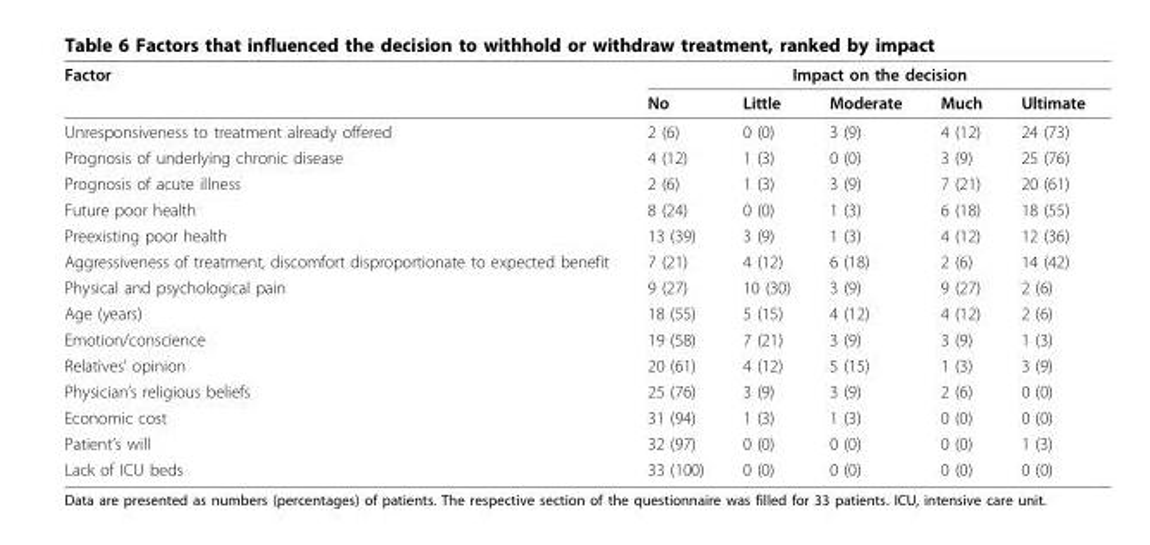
<table><thead><tr><td rowspan="2">Factor</td><td colspan="5">Impact on the decision</td></tr><tr><td>No</td><td>Little</td><td>Moderate</td><td>Much</td><td>Ultimate</td></tr></thead><tbody><tr><td>Unresponsiveness to treatment already offered</td><td>2 (6)</td><td>0 (0)</td><td>3 (9)</td><td>4 (12)</td><td>24 (73)</td></tr><tr><td>Prognosis of underlying chronic disease</td><td>4 (12)</td><td>1 (3)</td><td>0 (0)</td><td>3 (9)</td><td>25 (76)</td></tr><tr><td>Prognosis of acute illness</td><td>2 (6)</td><td>1 (3)</td><td>3 (9)</td><td>7 (21)</td><td>20 (61)</td></tr><tr><td>Future poor health</td><td>8 (24)</td><td>0 (0)</td><td>1 (3)</td><td>6 (18)</td><td>18 (55)</td></tr><tr><td>Preexisting poor health</td><td>13 (39)</td><td>3 (9)</td><td>1 (3)</td><td>4 (12)</td><td>12 (36)</td></tr><tr><td>Aggressiveness of treatment, discomfort disproportionate to expected benefit</td><td>7 (21)</td><td>4 (12)</td><td>6 (18)</td><td>2 (6)</td><td>14 (42)</td></tr><tr><td>Physical and psychological pain</td><td>9 (27)</td><td>10 (30)</td><td>3 (9)</td><td>9 (27)</td><td>2 (6)</td></tr><tr><td>Age (years)</td><td>18 (55)</td><td>5 (15)</td><td>4 (12)</td><td>4 (12)</td><td>2 (6)</td></tr><tr><td>Emotion/conscience</td><td>19 (58)</td><td>7 (21)</td><td>3 (9)</td><td>3 (9)</td><td>1 (3)</td></tr><tr><td>Relatives’ opinion</td><td>20 (61)</td><td>4 (12)</td><td>5 (15)</td><td>1 (3)</td><td>3 (9)</td></tr><tr><td>Physician’s religious beliefs</td><td>25 (76)</td><td>3 (9)</td><td>3 (9)</td><td>2 (6)</td><td>0 (0)</td></tr><tr><td>Economic cost</td><td>31 (94)</td><td>1 (3)</td><td>1 (3)</td><td>0 (0)</td><td>0 (0)</td></tr><tr><td>Patient’s will</td><td>32 (97)</td><td>0 (0)</td><td>0 (0)</td><td>0 (0)</td><td>1 (3)</td></tr><tr><td>Lack of ICU beds</td><td>33 (100)</td><td>0 (0)</td><td>0 (0)</td><td>0 (0)</td><td>0 (0)</td></tr></tbody></table>